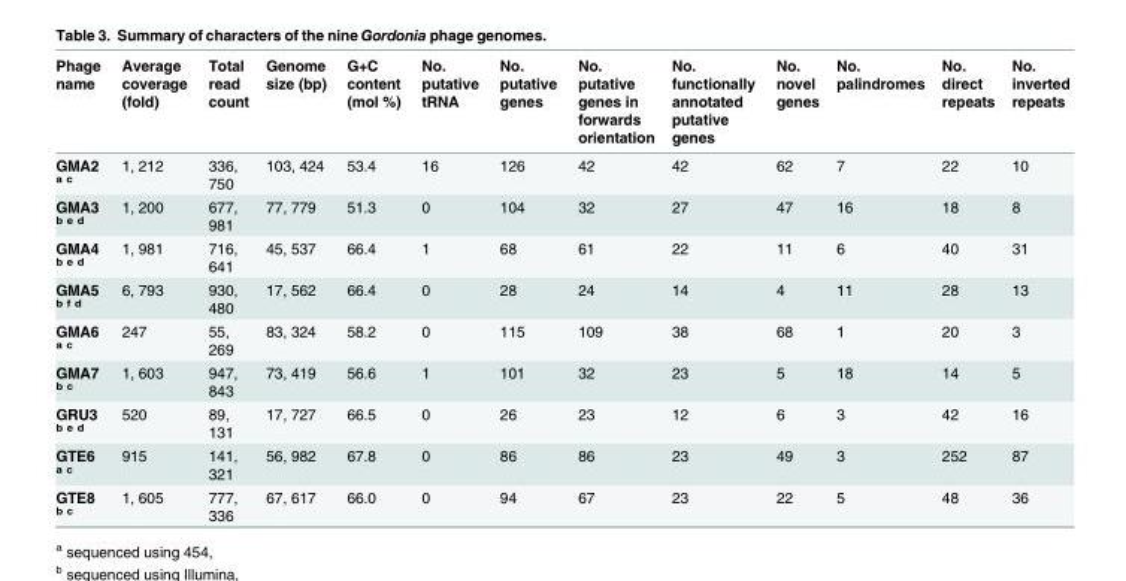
<table><thead><tr><td>Phage name</td><td>Average coverage (fold)</td><td>Total read count</td><td>Genome size (bp)</td><td>G+C content (mol %)</td><td>No. putative tRNA</td><td>No. putative genes</td><td>No. putative genes in forwards orientation</td><td>No. functionally annotated putative genes</td><td>No. novel genes</td><td>No. palindromes</td><td>No. direct repeats</td><td>No. inverted repeats</td></tr></thead><tbody><tr><td>GMA2 <sup>a c</sup></td><td>1, 212</td><td>336, 750</td><td>103, 424</td><td>53.4</td><td>16</td><td>126</td><td>42</td><td>42</td><td>62</td><td>7</td><td>22</td><td>10</td></tr><tr><td>GMA3 <sup>b e d</sup></td><td>1, 200</td><td>677, 981</td><td>77, 779</td><td>51.3</td><td>0</td><td>104</td><td>32</td><td>27</td><td>47</td><td>16</td><td>18</td><td>8</td></tr><tr><td>GMA4 <sup>b e d</sup></td><td>1, 981</td><td>716, 641</td><td>45, 537</td><td>66.4</td><td>1</td><td>68</td><td>61</td><td>22</td><td>11</td><td>6</td><td>40</td><td>31</td></tr><tr><td>GMA5 <sup>b f d</sup></td><td>6, 793</td><td>930, 480</td><td>17, 562</td><td>66.4</td><td>0</td><td>28</td><td>24</td><td>14</td><td>4</td><td>11</td><td>28</td><td>13</td></tr><tr><td>GMA6 <sup>a c</sup></td><td>247</td><td>55, 269</td><td>83, 324</td><td>58.2</td><td>0</td><td>115</td><td>109</td><td>38</td><td>68</td><td>1</td><td>20</td><td>3</td></tr><tr><td>GMA7 <sup>b c</sup></td><td>1, 603</td><td>947, 843</td><td>73, 419</td><td>56.6</td><td>1</td><td>101</td><td>32</td><td>23</td><td>5</td><td>18</td><td>14</td><td>5</td></tr><tr><td>GRU3 <sup>b e d</sup></td><td>520</td><td>89, 131</td><td>17, 727</td><td>66.5</td><td>0</td><td>26</td><td>23</td><td>12</td><td>6</td><td>3</td><td>42</td><td>16</td></tr><tr><td>GTE6 <sup>a c</sup></td><td>915</td><td>141, 321</td><td>56, 982</td><td>67.8</td><td>0</td><td>86</td><td>86</td><td>23</td><td>49</td><td>3</td><td>252</td><td>87</td></tr><tr><td>GTE8 <sup>b c</sup></td><td>1, 605</td><td>777, 336</td><td>67, 617</td><td>66.0</td><td>0</td><td>94</td><td>67</td><td>23</td><td>22</td><td>5</td><td>48</td><td>36</td></tr></tbody></table>